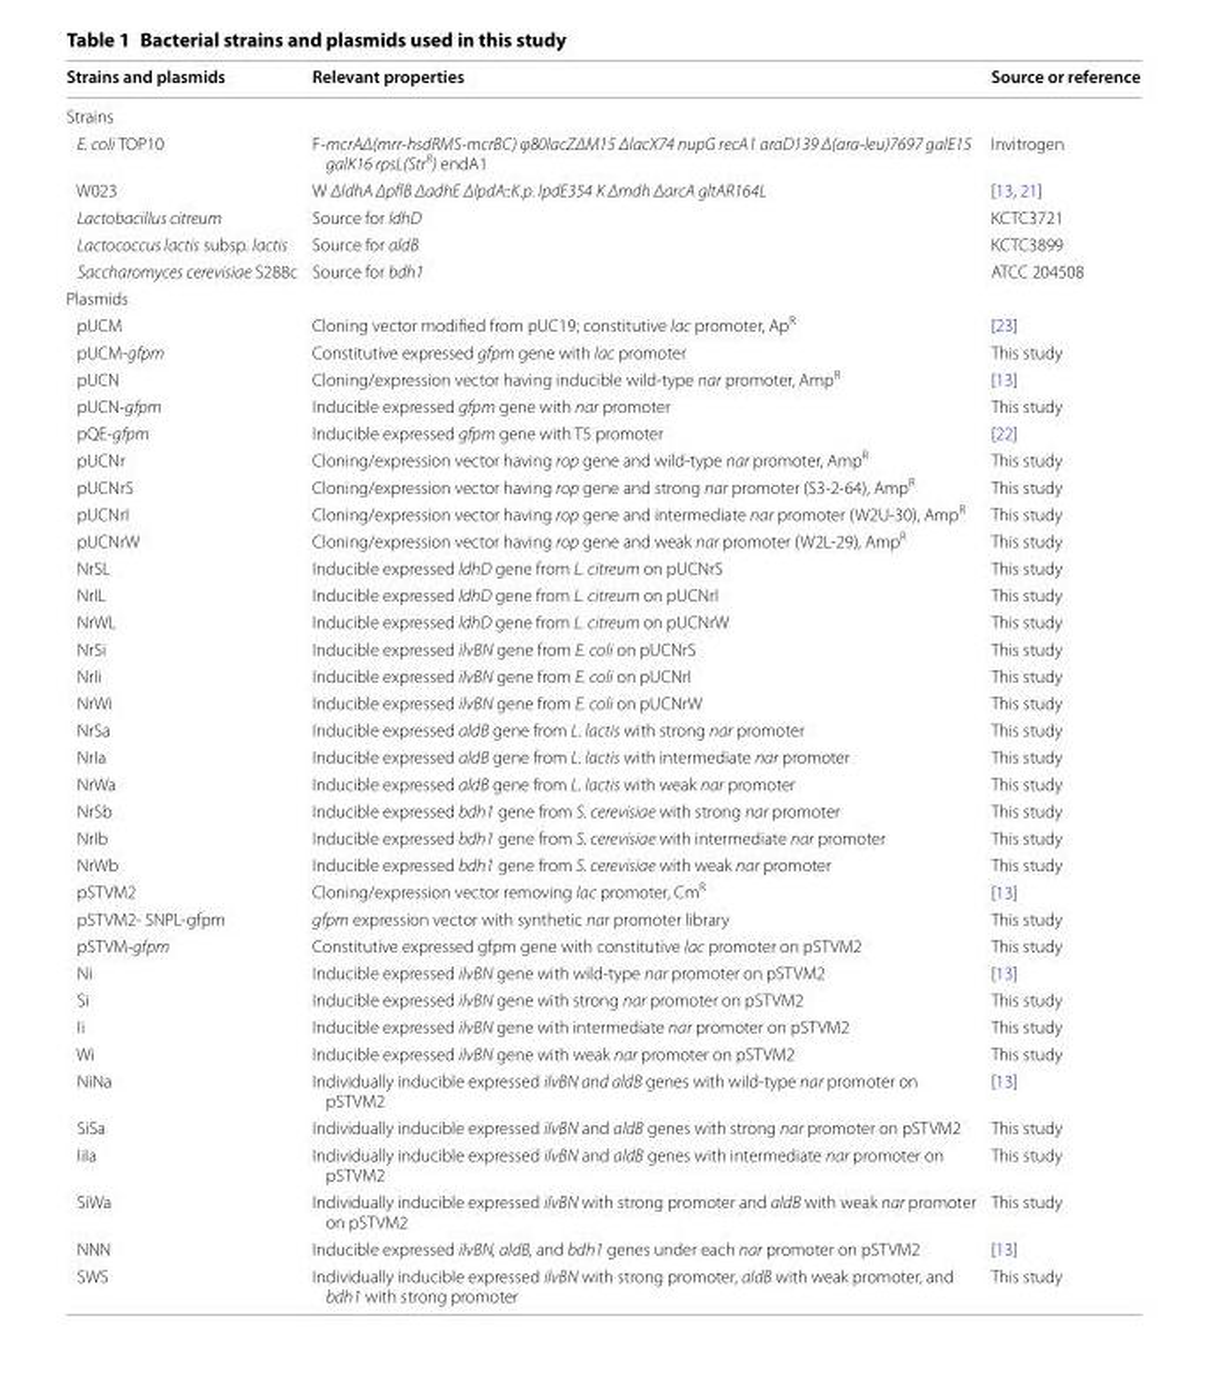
<table><thead><tr><td>Strains and plasmids</td><td>Relevant properties</td><td>Source or reference</td></tr></thead><tbody><tr><td colspan="3">Strains</td></tr><tr><td>E. coli TOP10</td><td>F-mcrAΔ(mrr-hsdRMS-mcrBC) φ80lacZΔM15 ΔlacX74 nupG recA1 araD139 Δ(ara-leu)7697 galE15 galK16 rpsL(Str<sup>R</sup>) endA1</td><td>Invitrogen</td></tr><tr><td>W023</td><td>W ΔldhA ΔpflB ΔadhE ΔlpdA::K.p. lpdE354 K Δmdh ΔarcA gltAR164L</td><td>[13, 21]</td></tr><tr><td>Lactobacillus citreum</td><td>Source for ldhD</td><td>KCTC3721</td></tr><tr><td>Lactococcus lactis subsp. lactis</td><td>Source for aldB</td><td>KCTC3899</td></tr><tr><td>Saccharomyces cerevisiae S288c</td><td>Source for bdh1</td><td>ATCC 204508</td></tr><tr><td colspan="3">Plasmids</td></tr><tr><td>pUCM</td><td>Cloning vector modified from pUC19; constitutive lac promoter, Ap<sup>R</sup></td><td>[23]</td></tr><tr><td>pUCM-gfpm</td><td>Constitutive expressed gfpm gene with lac promoter</td><td>This study</td></tr><tr><td>pUCN</td><td>Cloning/expression vector having inducible wild-type nar promoter, Amp<sup>R</sup></td><td>[13]</td></tr><tr><td>pUCN-gfpm</td><td>Inducible expressed gfpm gene with nar promoter</td><td>This study</td></tr><tr><td>pQE-gfpm</td><td>Inducible expressed gfpm gene with T5 promoter</td><td>[22]</td></tr><tr><td>pUCNr</td><td>Cloning/expression vector having rop gene and wild-type nar promoter, Amp<sup>R</sup></td><td>This study</td></tr><tr><td>pUCNrS</td><td>Cloning/expression vector having rop gene and strong nar promoter (S3-2-64), Amp<sup>R</sup></td><td>This study</td></tr><tr><td>pUCNrI</td><td>Cloning/expression vector having rop gene and intermediate nar promoter (W2U-30), Amp<sup>R</sup></td><td>This study</td></tr><tr><td>pUCNrW</td><td>Cloning/expression vector having rop gene and weak nar promoter (W2L-29), Amp<sup>R</sup></td><td>This study</td></tr><tr><td>NrSL</td><td>Inducible expressed ldhD gene from L. citreum on pUCNrS</td><td>This study</td></tr><tr><td>NrIL</td><td>Inducible expressed ldhD gene from L. citreum on pUCNrI</td><td>This study</td></tr><tr><td>NrWL</td><td>Inducible expressed ldhD gene from L. citreum on pUCNrW</td><td>This study</td></tr><tr><td>NrSi</td><td>Inducible expressed ilvBN gene from E. coli on pUCNrS</td><td>This study</td></tr><tr><td>NrIi</td><td>Inducible expressed ilvBN gene from E. coli on pUCNrI</td><td>This study</td></tr><tr><td>NrWi</td><td>Inducible expressed ilvBN gene from E. coli on pUCNrW</td><td>This study</td></tr><tr><td>NrSa</td><td>Inducible expressed aldB gene from L. lactis with strong nar promoter</td><td>This study</td></tr><tr><td>NrIa</td><td>Inducible expressed aldB gene from L. lactis with intermediate nar promoter</td><td>This study</td></tr><tr><td>NrWa</td><td>Inducible expressed aldB gene from L. lactis with weak nar promoter</td><td>This study</td></tr><tr><td>NrSb</td><td>Inducible expressed bdh1 gene from S. cerevisiae with strong nar promoter</td><td>This study</td></tr><tr><td>NrIb</td><td>Inducible expressed bdh1 gene from S. cerevisiae with intermediate nar promoter</td><td>This study</td></tr><tr><td>NrWb</td><td>Inducible expressed bdh1 gene from S. cerevisiae with weak nar promoter</td><td>This study</td></tr><tr><td>pSTVM2</td><td>Cloning/expression vector removing lac promoter, Cm<sup>R</sup></td><td>[13]</td></tr><tr><td>pSTVM2- SNPL-gfpm</td><td>gfpm expression vector with synthetic nar promoter library</td><td>This study</td></tr><tr><td>pSTVM-gfpm</td><td>Constitutive expressed gfpm gene with constitutive lac promoter on pSTVM2</td><td>This study</td></tr><tr><td>Ni</td><td>Inducible expressed ilvBN gene with wild-type nar promoter on pSTVM2</td><td>[13]</td></tr><tr><td>Si</td><td>Inducible expressed ilvBN gene with strong nar promoter on pSTVM2</td><td>This study</td></tr><tr><td>Ii</td><td>Inducible expressed ilvBN gene with intermediate nar promoter on pSTVM2</td><td>This study</td></tr><tr><td>Wi</td><td>Inducible expressed ilvBN gene with weak nar promoter on pSTVM2</td><td>This study</td></tr><tr><td>NiNa</td><td>Individually inducible expressed ilvBN and aldB genes with wild-type nar promoter on pSTVM2</td><td>[13]</td></tr><tr><td>SiSa</td><td>Individually inducible expressed ilvBN and aldB genes with strong nar promoter on pSTVM2</td><td>This study</td></tr><tr><td>IiIa</td><td>Individually inducible expressed ilvBN and aldB genes with intermediate nar promoter on pSTVM2</td><td>This study</td></tr><tr><td>SiWa</td><td>Individually inducible expressed ilvBN with strong promoter and aldB with weak nar promoter on pSTVM2</td><td>This study</td></tr><tr><td>NNN</td><td>Inducible expressed ilvBN, aldB, and bdh1 genes under each nar promoter on pSTVM2</td><td>[13]</td></tr><tr><td>SWS</td><td>Individually inducible expressed ilvBN with strong promoter, aldB with weak promoter, and bdh1 with strong promoter</td><td>This study</td></tr></tbody></table>